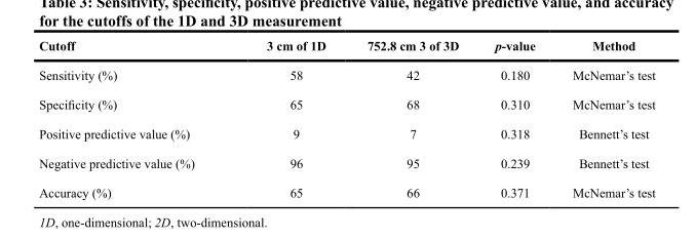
<table><thead><tr><td>Cutoff</td><td>3 cm of 1D</td><td>752.8 cm 3 of 3D</td><td>p-value</td><td>Method</td></tr></thead><tbody><tr><td>Sensitivity (%)</td><td>58</td><td>42</td><td>0.180</td><td>McNemar’s test</td></tr><tr><td>Specificity (%)</td><td>65</td><td>68</td><td>0.310</td><td>McNemar’s test</td></tr><tr><td>Positive predictive value (%)</td><td>9</td><td>7</td><td>0.318</td><td>Bennett’s test</td></tr><tr><td>Negative predictive value (%)</td><td>96</td><td>95</td><td>0.239</td><td>Bennett’s test</td></tr><tr><td>Accuracy (%)</td><td>65</td><td>66</td><td>0.371</td><td>McNemar’s test</td></tr></tbody></table>